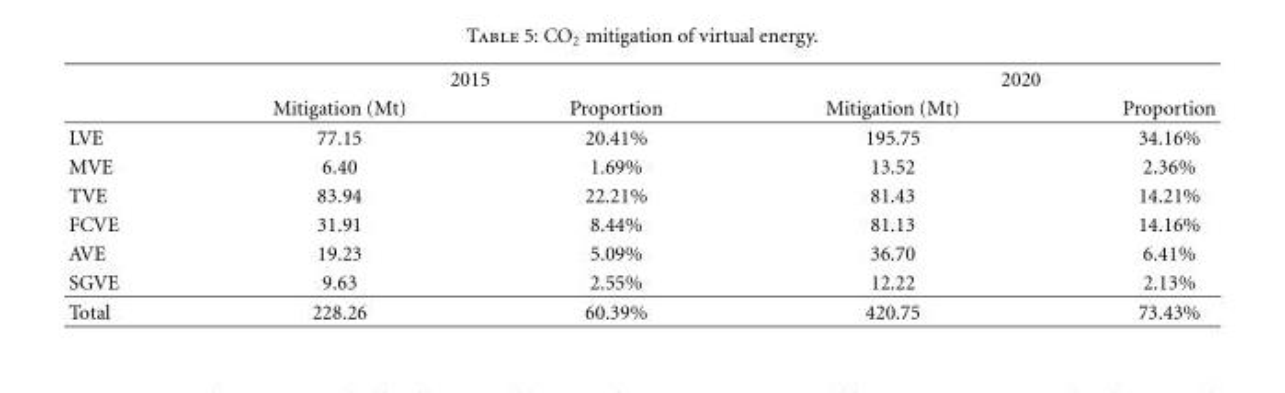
<table><thead><tr><td rowspan="2"></td><td colspan="2">2015</td><td colspan="2">2020</td></tr><tr><td>Mitigation (Mt)</td><td>Proportion</td><td>Mitigation (Mt)</td><td>Proportion</td></tr></thead><tbody><tr><td>LVE</td><td>77.15</td><td>20.41%</td><td>195.75</td><td>34.16%</td></tr><tr><td>MVE</td><td>6.40</td><td>1.69%</td><td>13.52</td><td>2.36%</td></tr><tr><td>TVE</td><td>83.94</td><td>22.21%</td><td>81.43</td><td>14.21%</td></tr><tr><td>FCVE</td><td>31.91</td><td>8.44%</td><td>81.13</td><td>14.16%</td></tr><tr><td>AVE</td><td>19.23</td><td>5.09%</td><td>36.70</td><td>6.41%</td></tr><tr><td>SGVE</td><td>9.63</td><td>2.55%</td><td>12.22</td><td>2.13%</td></tr><tr><td>Total</td><td>228.26</td><td>60.39%</td><td>420.75</td><td>73.43%</td></tr></tbody></table>